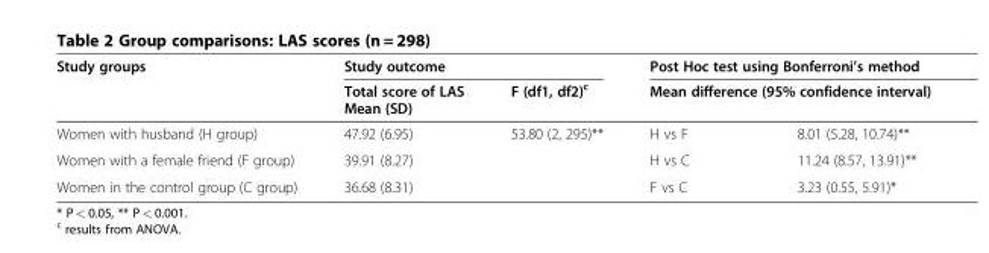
<table><thead><tr><td rowspan="3">Study groups Women with husband (H group)</td><td colspan="2">Study outcome</td><td rowspan="2" colspan="2">Post Hoc test using Bonferroni’s method Mean difference (95% confidence interval)</td></tr><tr><td rowspan="2">Total score of LAS Mean (SD) 47.92 (6.95)</td><td rowspan="2">F (df1, df2)<sup>c</sup> 53.80 (2, 295)**</td></tr><tr><td>H vs F</td><td>8.01 (5.28, 10.74)**</td></tr></thead><tbody><tr><td>Women with a female friend (F group)</td><td>39.91 (8.27)</td><td rowspan="2"></td><td>H vs C</td><td>11.24 (8.57, 13.91)**</td></tr><tr><td>Women in the control group (C group)</td><td>36.68 (8.31)</td><td>F vs C</td><td>3.23 (0.55, 5.91)*</td></tr></tbody></table>